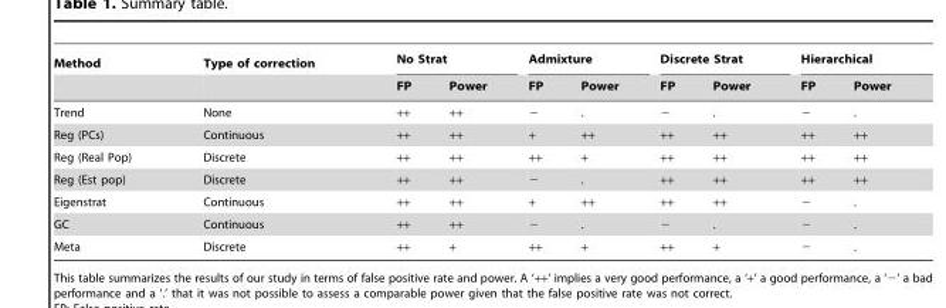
<table><thead><tr><td rowspan="2">Method</td><td rowspan="2">Type of correction</td><td colspan="2">No Strat</td><td colspan="2">Admixture</td><td colspan="2">Discrete Strat</td><td colspan="2">Hierarchical</td></tr><tr><td>FP</td><td>Power</td><td>FP</td><td>Power</td><td>FP</td><td>Power</td><td>FP</td><td>Power</td></tr></thead><tbody><tr><td>Trend</td><td>None</td><td>++</td><td>++</td><td>−</td><td>.</td><td>−</td><td>.</td><td>−</td><td>.</td></tr><tr><td>Reg (PCs)</td><td>Continuous</td><td>++</td><td>++</td><td>+</td><td>++</td><td>++</td><td>++</td><td>++</td><td>++</td></tr><tr><td>Reg (Real Pop)</td><td>Discrete</td><td>++</td><td>++</td><td>++</td><td>+</td><td>++</td><td>++</td><td>++</td><td>++</td></tr><tr><td>Reg (Est pop)</td><td>Discrete</td><td>++</td><td>++</td><td>−</td><td>.</td><td>++</td><td>++</td><td>++</td><td>++</td></tr><tr><td>Eigenstrat</td><td>Continuous</td><td>++</td><td>++</td><td>+</td><td>++</td><td>++</td><td>++</td><td>−</td><td>.</td></tr><tr><td>GC</td><td>Continuous</td><td>++</td><td>++</td><td>−</td><td>.</td><td>−</td><td>.</td><td>−</td><td>.</td></tr><tr><td>Meta</td><td>Discrete</td><td>++</td><td>+</td><td>++</td><td>+</td><td>++</td><td>+</td><td>−</td><td>.</td></tr></tbody></table>